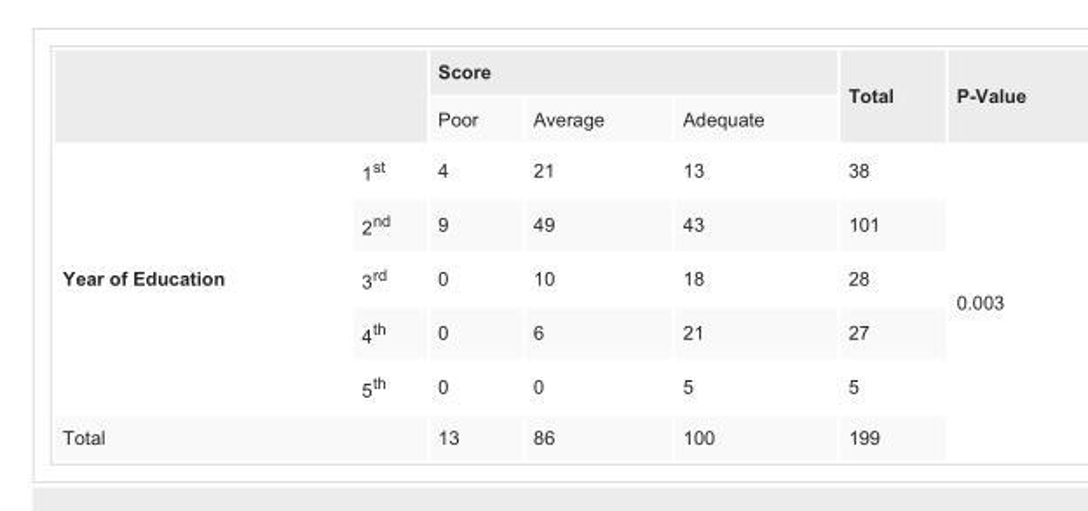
<table><thead><tr><td rowspan="2"></td><td rowspan="2"></td><td colspan="3">Score</td><td rowspan="2">Total</td><td rowspan="2">P-Value</td></tr><tr><td>Poor</td><td>Average</td><td>Adequate</td></tr></thead><tbody><tr><td rowspan="5">Year of Education</td><td>1<sup>st</sup></td><td>4</td><td>21</td><td>13</td><td>38</td><td rowspan="6">0.003</td></tr><tr><td>2<sup>nd</sup></td><td>9</td><td>49</td><td>43</td><td>101</td></tr><tr><td>3<sup>rd</sup></td><td>0</td><td>10</td><td>18</td><td>28</td></tr><tr><td>4<sup>th</sup></td><td>0</td><td>6</td><td>21</td><td>27</td></tr><tr><td>5<sup>th</sup></td><td>0</td><td>0</td><td>5</td><td>5</td></tr><tr><td colspan="2">Total</td><td>13</td><td>86</td><td>100</td><td>199</td></tr></tbody></table>